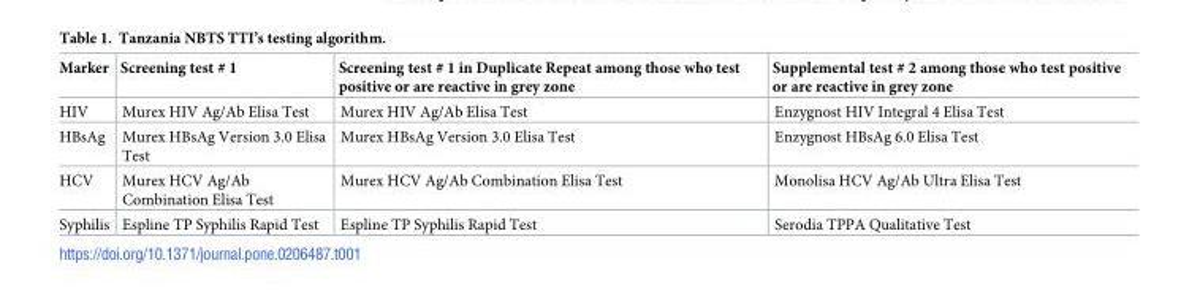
<table><thead><tr><td>Marker</td><td>Screening test # 1</td><td>Screening test # 1 in Duplicate Repeat among those who test positive or are reactive in grey zone</td><td>Supplemental test # 2 among those who test positive or are reactive in grey zone</td></tr></thead><tbody><tr><td>HIV</td><td>Murex HIV Ag/Ab Elisa Test</td><td>Murex HIV Ag/Ab Elisa Test</td><td>Enzygnost HIV Integral 4 Elisa Test</td></tr><tr><td>HBsAg</td><td>Murex HBsAg Version 3.0 Elisa Test</td><td>Murex HBsAg Version 3.0 Elisa Test</td><td>Enzygnost HBsAg 6.0 Elisa Test</td></tr><tr><td>HCV</td><td>Murex HCV Ag/Ab Combination Elisa Test</td><td>Murex HCV Ag/Ab Combination Elisa Test</td><td>Monolisa HCV Ag/Ab Ultra Elisa Test</td></tr><tr><td>Syphilis</td><td>Espline TP Syphilis Rapid Test</td><td>Espline TP Syphilis Rapid Test</td><td>Serodia TPPA Qualitative Test</td></tr></tbody></table>